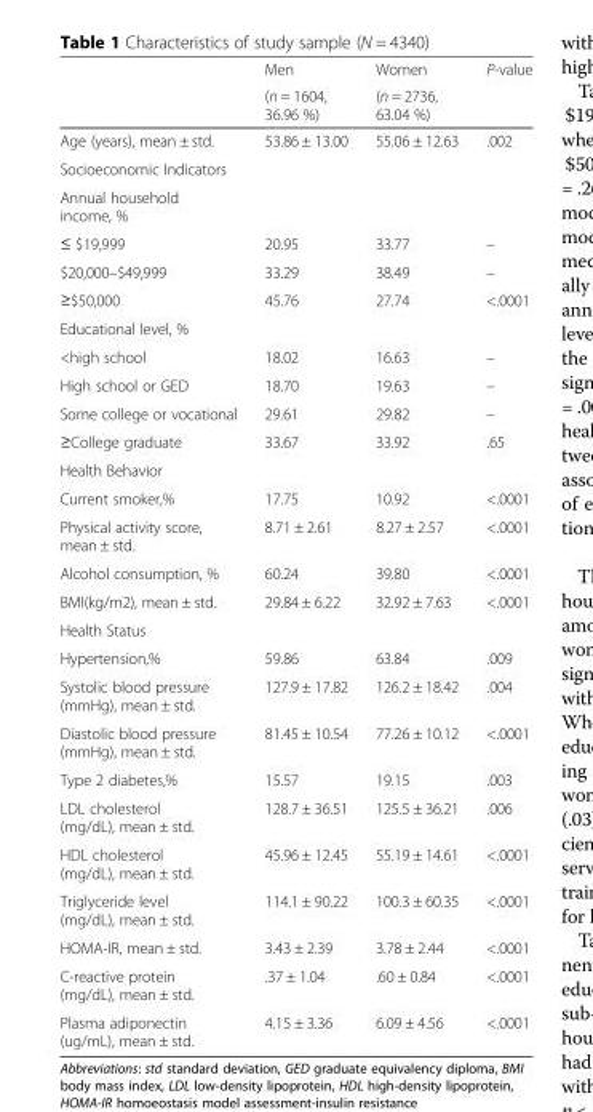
<table><thead><tr><td rowspan="2"></td><td rowspan="2">Men (n = 1604, 36.96 %)</td><td rowspan="2">Women (n = 2736, 63.04 %)</td><td rowspan="2">P-value</td></tr><tr></tr></thead><tbody><tr><td>Age (years), mean ± std.</td><td>53.86 ± 13.00</td><td>55.06 ± 12.63</td><td>.002</td></tr><tr><td colspan="4">Socioeconomic Indicators</td></tr><tr><td colspan="4">Annual household income, %</td></tr><tr><td>≤ $19,999</td><td>20.95</td><td>33.77</td><td>–</td></tr><tr><td>$20,000–$49,999</td><td>33.29</td><td>38.49</td><td>–</td></tr><tr><td>≥$50,000</td><td>45.76</td><td>27.74</td><td>&lt;.0001</td></tr><tr><td colspan="4">Educational level, %</td></tr><tr><td>&lt;high school</td><td>18.02</td><td>16.63</td><td>–</td></tr><tr><td>High school or GED</td><td>18.70</td><td>19.63</td><td>–</td></tr><tr><td>Some college or vocational</td><td>29.61</td><td>29.82</td><td>–</td></tr><tr><td>≥College graduate</td><td>33.67</td><td>33.92</td><td>.65</td></tr><tr><td colspan="4">Health Behavior</td></tr><tr><td>Current smoker,%</td><td>17.75</td><td>10.92</td><td>&lt;.0001</td></tr><tr><td>Physical activity score, mean ± std.</td><td>8.71 ± 2.61</td><td>8.27 ± 2.57</td><td>&lt;.0001</td></tr><tr><td>Alcohol consumption, %</td><td>60.24</td><td>39.80</td><td>&lt;.0001</td></tr><tr><td>BMI(kg/m2), mean ± std.</td><td>29.84 ± 6.22</td><td>32.92 ± 7.63</td><td>&lt;.0001</td></tr><tr><td colspan="4">Health Status</td></tr><tr><td>Hypertension,%</td><td>59.86</td><td>63.84</td><td>.009</td></tr><tr><td>Systolic blood pressure (mmHg), mean ± std.</td><td>127.9 ± 17.82</td><td>126.2 ± 18.42</td><td>.004</td></tr><tr><td>Diastolic blood pressure (mmHg), mean ± std.</td><td>81.45 ± 10.54</td><td>77.26 ± 10.12</td><td>&lt;.0001</td></tr><tr><td>Type 2 diabetes,%</td><td>15.57</td><td>19.15</td><td>.003</td></tr><tr><td>LDL cholesterol (mg/dL), mean ± std.</td><td>128.7 ± 36.51</td><td>125.5 ± 36.21</td><td>.006</td></tr><tr><td>HDL cholesterol (mg/dL), mean ± std.</td><td>45.96 ± 12.45</td><td>55.19 ± 14.61</td><td>&lt;.0001</td></tr><tr><td>Triglyceride level (mg/dL), mean ± std.</td><td>114.1 ± 90.22</td><td>100.3 ± 60.35</td><td>&lt;.0001</td></tr><tr><td>HOMA-IR, mean ± std.</td><td>3.43 ± 2.39</td><td>3.78 ± 2.44</td><td>&lt;.0001</td></tr><tr><td>C-reactive protein (mg/dL), mean ± std.</td><td>.37 ± 1.04</td><td>.60 ± 0.84</td><td>&lt;.0001</td></tr><tr><td>Plasma adiponectin (ug/mL), mean ± std.</td><td>4.15 ± 3.36</td><td>6.09 ± 4.56</td><td>&lt;.0001</td></tr></tbody></table>